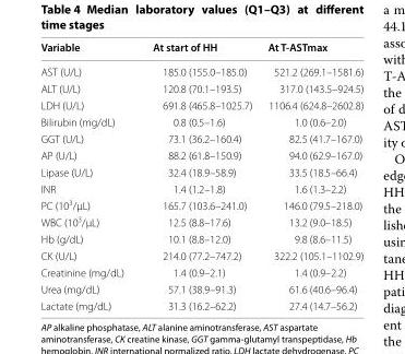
<table><thead><tr><td>Variable</td><td>At start of HH</td><td>At T‑ASTmax</td></tr></thead><tbody><tr><td>AST (U/L)</td><td>185.0 (155.0–185.0)</td><td>521.2 (269.1–1581.6)</td></tr><tr><td>ALT (U/L)</td><td>120.8 (70.1–193.5)</td><td>317.0 (143.5–924.5)</td></tr><tr><td>LDH (U/L)</td><td>691.8 (465.8–1025.7)</td><td>1106.4 (624.8–2602.8)</td></tr><tr><td>Bilirubin (mg/dL)</td><td>0.8 (0.5–1.6)</td><td>1.0 (0.6–2.0)</td></tr><tr><td>GGT (U/L)</td><td>73.1 (36.2–160.4)</td><td>82.5 (41.7–167.0)</td></tr><tr><td>AP (U/L)</td><td>88.2 (61.8–150.9)</td><td>94.0 (62.9–167.0)</td></tr><tr><td>Lipase (U/L)</td><td>32.4 (18.9–58.9)</td><td>33.5 (18.5–66.4)</td></tr><tr><td>INR</td><td>1.4 (1.2–1.8)</td><td>1.6 (1.3–2.2)</td></tr><tr><td>PC (10<sup>3</sup>/µL)</td><td>165.7 (103.6–241.0)</td><td>146.0 (79.5–218.0)</td></tr><tr><td>WBC (10<sup>3</sup>/µL)</td><td>12.5 (8.8–17.6)</td><td>13.2 (9.0–18.5)</td></tr><tr><td>Hb (g/dL)</td><td>10.1 (8.8–12.0)</td><td>9.8 (8.6–11.5)</td></tr><tr><td>CK (U/L)</td><td>214.0 (77.2–747.2)</td><td>322.2 (105.1–1102.9)</td></tr><tr><td>Creatinine (mg/dL)</td><td>1.4 (0.9–2.1)</td><td>1.4 (0.9–2.2)</td></tr><tr><td>Urea (mg/dL)</td><td>57.1 (38.9–91.3)</td><td>61.6 (40.6–96.4)</td></tr><tr><td>Lactate (mg/dL)</td><td>31.3 (16.2–62.2)</td><td>27.4 (14.7–56.2)</td></tr></tbody></table>